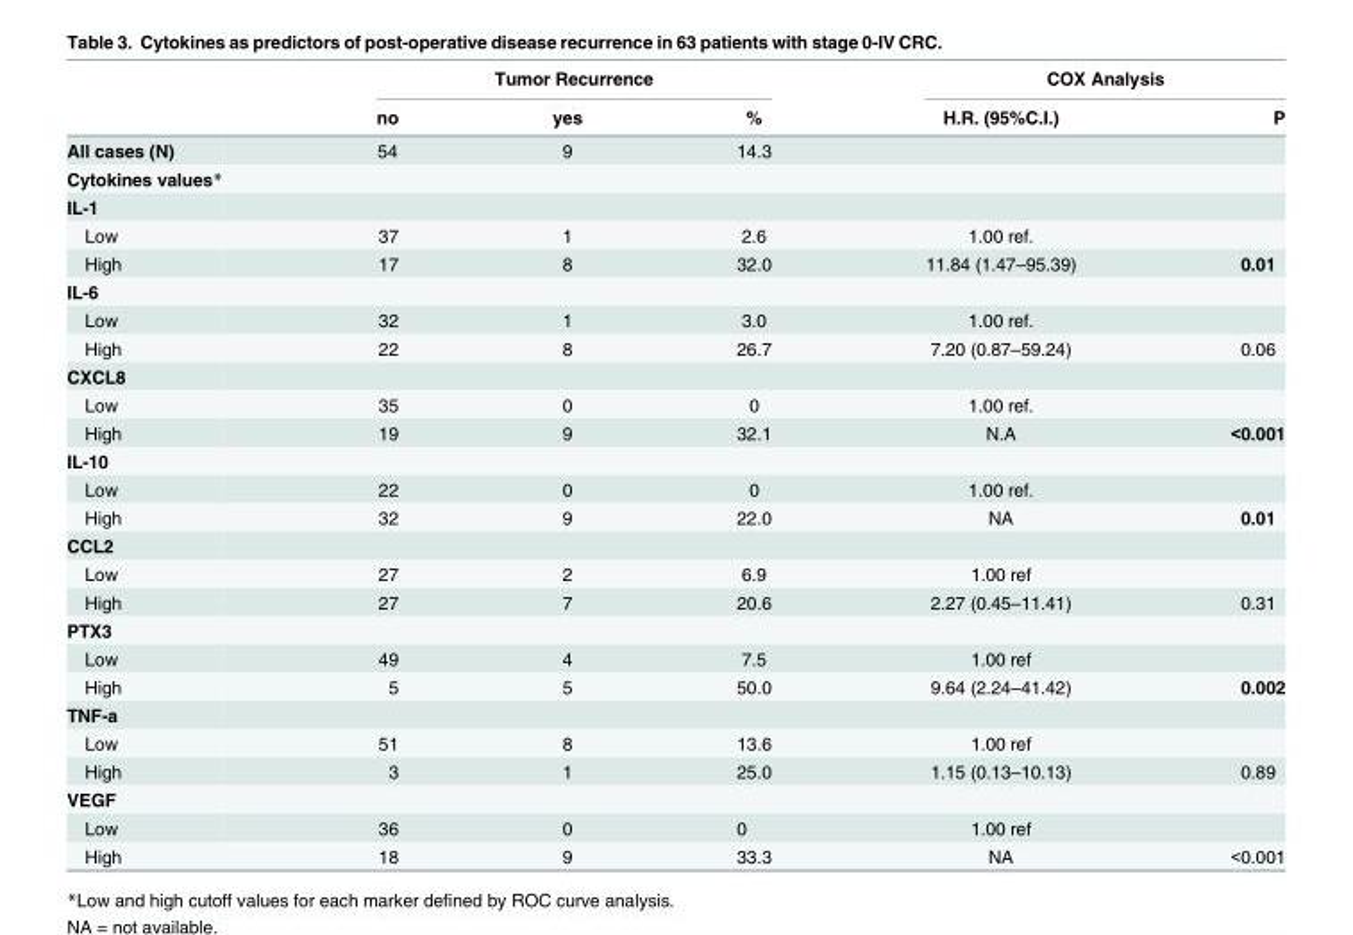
<table><thead><tr><td rowspan="2"></td><td colspan="3">Tumor Recurrence</td><td colspan="2">COX Analysis</td></tr><tr><td>no</td><td>yes</td><td>%</td><td>H.R. (95%C.I.)</td><td>P</td></tr></thead><tbody><tr><td>All cases (N)</td><td>54</td><td>9</td><td>14.3</td><td></td><td></td></tr><tr><td colspan="6">Cytokines values*</td></tr><tr><td colspan="6">IL-1</td></tr><tr><td>Low</td><td>37</td><td>1</td><td>2.6</td><td>1.00 ref.</td><td></td></tr><tr><td>High</td><td>17</td><td>8</td><td>32.0</td><td>11.84 (1.47–95.39)</td><td>0.01</td></tr><tr><td colspan="6">IL-6</td></tr><tr><td>Low</td><td>32</td><td>1</td><td>3.0</td><td>1.00 ref.</td><td></td></tr><tr><td>High</td><td>22</td><td>8</td><td>26.7</td><td>7.20 (0.87–59.24)</td><td>0.06</td></tr><tr><td colspan="6">CXCL8</td></tr><tr><td>Low</td><td>35</td><td>0</td><td>0</td><td>1.00 ref.</td><td></td></tr><tr><td>High</td><td>19</td><td>9</td><td>32.1</td><td>N.A</td><td>&lt;0.001</td></tr><tr><td colspan="6">IL-10</td></tr><tr><td>Low</td><td>22</td><td>0</td><td>0</td><td>1.00 ref.</td><td></td></tr><tr><td>High</td><td>32</td><td>9</td><td>22.0</td><td>NA</td><td>0.01</td></tr><tr><td colspan="6">CCL2</td></tr><tr><td>Low</td><td>27</td><td>2</td><td>6.9</td><td>1.00 ref</td><td></td></tr><tr><td>High</td><td>27</td><td>7</td><td>20.6</td><td>2.27 (0.45–11.41)</td><td>0.31</td></tr><tr><td colspan="6">PTX3</td></tr><tr><td>Low</td><td>49</td><td>4</td><td>7.5</td><td>1.00 ref</td><td></td></tr><tr><td>High</td><td>5</td><td>5</td><td>50.0</td><td>9.64 (2.24–41.42)</td><td>0.002</td></tr><tr><td colspan="6">TNF-a</td></tr><tr><td>Low</td><td>51</td><td>8</td><td>13.6</td><td>1.00 ref</td><td></td></tr><tr><td>High</td><td>3</td><td>1</td><td>25.0</td><td>1.15 (0.13–10.13)</td><td>0.89</td></tr><tr><td colspan="6">VEGF</td></tr><tr><td>Low</td><td>36</td><td>0</td><td>0</td><td>1.00 ref</td><td></td></tr><tr><td>High</td><td>18</td><td>9</td><td>33.3</td><td>NA</td><td>&lt;0.001</td></tr></tbody></table>